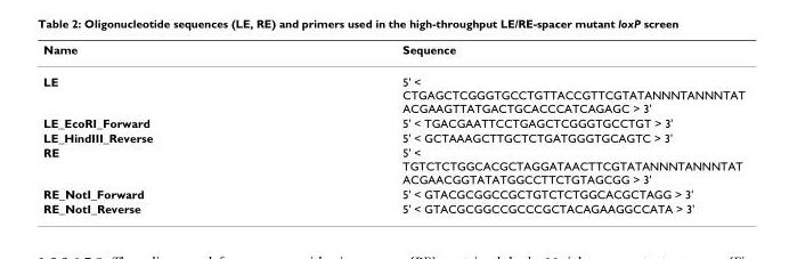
<table><thead><tr><td>Name</td><td>Sequence</td></tr></thead><tbody><tr><td>LE</td><td>5&#x27; &lt; CTGAGCTCGGGTGCCTGTTACCGTTCGTATANNNTANNNTAT ACGAAGTTATGACTGCACCCATCAGAGC &gt; 3&#x27;</td></tr><tr><td>LE_EcoRI_Forward</td><td>5&#x27; &lt; TGACGAATTCCTGAGCTCGGGTGCCTGT &gt; 3&#x27;</td></tr><tr><td>LE_HindIII_Reverse</td><td>5&#x27; &lt; GCTAAAGCTTGCTCTGATGGGTGCAGTC &gt; 3&#x27;</td></tr><tr><td>RE</td><td>5&#x27; &lt; TGTCTCTGGCACGCTAGGATAACTTCGTATANNNTANNNTAT ACGAACGGTATATGGCCTTCTGTAGCGG &gt; 3&#x27;</td></tr><tr><td>RE_NotI_Forward</td><td>5&#x27; &lt; GTACGCGGCCGCTGTCTCTGGCACGCTAGG &gt; 3&#x27;</td></tr><tr><td>RE_NotI_Reverse</td><td>5&#x27; &lt; GTACGCGGCCGCCCGCTACAGAAGGCCATA &gt; 3&#x27;</td></tr></tbody></table>